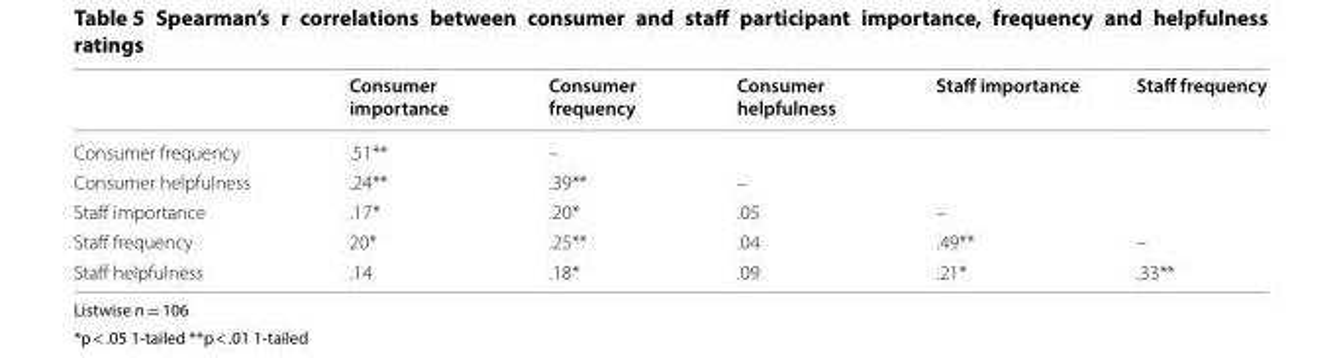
<table><thead><tr><td></td><td>Consumer importance</td><td>Consumer frequency</td><td>Consumer helpfulness</td><td>Staff importance</td><td>Staff frequency</td></tr></thead><tbody><tr><td>Consumer frequency</td><td>.51**</td><td>–</td><td></td><td></td><td></td></tr><tr><td>Consumer helpfulness</td><td>.24**</td><td>.39**</td><td>–</td><td></td><td></td></tr><tr><td>Staff importance</td><td>.17*</td><td>.20*</td><td>.05</td><td>–</td><td></td></tr><tr><td>Staff frequency</td><td>20*</td><td>.25**</td><td>.04</td><td>.49**</td><td>–</td></tr><tr><td>Staff helpfulness</td><td>.14</td><td>.18*</td><td>.09</td><td>.21*</td><td>.33**</td></tr></tbody></table>